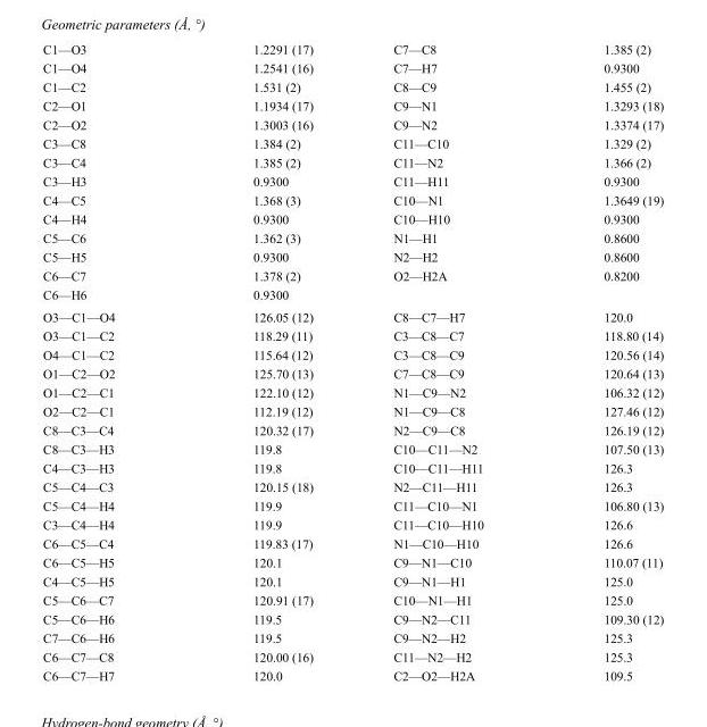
<table><tbody><tr><td>C1—O3</td><td>1.2291 (17)</td><td>C7—C8</td><td>1.385 (2)</td></tr><tr><td>C1—O4</td><td>1.2541 (16)</td><td>C7—H7</td><td>0.9300</td></tr><tr><td>C1—C2</td><td>1.531 (2)</td><td>C8—C9</td><td>1.455 (2)</td></tr><tr><td>C2—O1</td><td>1.1934 (17)</td><td>C9—N1</td><td>1.3293 (18)</td></tr><tr><td>C2—O2</td><td>1.3003 (16)</td><td>C9—N2</td><td>1.3374 (17)</td></tr><tr><td>C3—C8</td><td>1.384 (2)</td><td>C11—C10</td><td>1.329 (2)</td></tr><tr><td>C3—C4</td><td>1.385 (2)</td><td>C11—N2</td><td>1.366 (2)</td></tr><tr><td>C3—H3</td><td>0.9300</td><td>C11—H11</td><td>0.9300</td></tr><tr><td>C4—C5</td><td>1.368 (3)</td><td>C10—N1</td><td>1.3649 (19)</td></tr><tr><td>C4—H4</td><td>0.9300</td><td>C10—H10</td><td>0.9300</td></tr><tr><td>C5—C6</td><td>1.362 (3)</td><td>N1—H1</td><td>0.8600</td></tr><tr><td>C5—H5</td><td>0.9300</td><td>N2—H2</td><td>0.8600</td></tr><tr><td>C6—C7</td><td>1.378 (2)</td><td>O2—H2A</td><td>0.8200</td></tr><tr><td>C6—H6</td><td>0.9300</td><td></td><td></td></tr><tr><td>O3—C1—O4</td><td>126.05 (12)</td><td>C8—C7—H7</td><td>120.0</td></tr><tr><td>O3—C1—C2</td><td>118.29 (11)</td><td>C3—C8—C7</td><td>118.80 (14)</td></tr><tr><td>O4—C1—C2</td><td>115.64 (12)</td><td>C3—C8—C9</td><td>120.56 (14)</td></tr><tr><td>O1—C2—O2</td><td>125.70 (13)</td><td>C7—C8—C9</td><td>120.64 (13)</td></tr><tr><td>O1—C2—C1</td><td>122.10 (12)</td><td>N1—C9—N2</td><td>106.32 (12)</td></tr><tr><td>O2—C2—C1</td><td>112.19 (12)</td><td>N1—C9—C8</td><td>127.46 (12)</td></tr><tr><td>C8—C3—C4</td><td>120.32 (17)</td><td>N2—C9—C8</td><td>126.19 (12)</td></tr><tr><td>C8—C3—H3</td><td>119.8</td><td>C10—C11—N2</td><td>107.50 (13)</td></tr><tr><td>C4—C3—H3</td><td>119.8</td><td>C10—C11—H11</td><td>126.3</td></tr><tr><td>C5—C4—C3</td><td>120.15 (18)</td><td>N2—C11—H11</td><td>126.3</td></tr><tr><td>C5—C4—H4</td><td>119.9</td><td>C11—C10—N1</td><td>106.80 (13)</td></tr><tr><td>C3—C4—H4</td><td>119.9</td><td>C11—C10—H10</td><td>126.6</td></tr><tr><td>C6—C5—C4</td><td>119.83 (17)</td><td>N1—C10—H10</td><td>126.6</td></tr><tr><td>C6—C5—H5</td><td>120.1</td><td>C9—N1—C10</td><td>110.07 (11)</td></tr><tr><td>C4—C5—H5</td><td>120.1</td><td>C9—N1—H1</td><td>125.0</td></tr><tr><td>C5—C6—C7</td><td>120.91 (17)</td><td>C10—N1—H1</td><td>125.0</td></tr><tr><td>C5—C6—H6</td><td>119.5</td><td>C9—N2—C11</td><td>109.30 (12)</td></tr><tr><td>C7—C6—H6</td><td>119.5</td><td>C9—N2—H2</td><td>125.3</td></tr><tr><td>C6—C7—C8</td><td>120.00 (16)</td><td>C11—N2—H2</td><td>125.3</td></tr><tr><td>C6—C7—H7</td><td>120.0</td><td>C2—O2—H2A</td><td>109.5</td></tr></tbody></table>